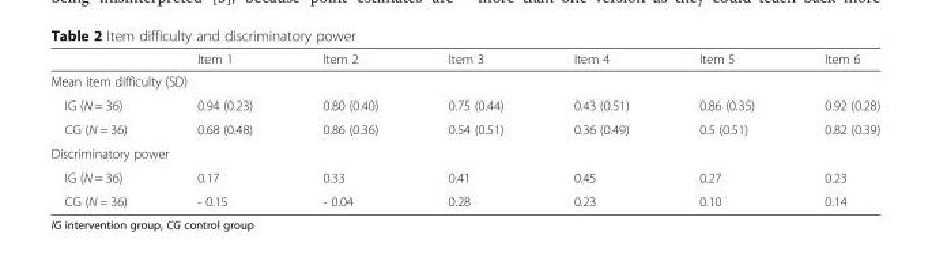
<table><thead><tr><td></td><td>Item 1</td><td>Item 2</td><td>Item 3</td><td>Item 4</td><td>Item 5</td><td>Item 6</td></tr></thead><tbody><tr><td colspan="7">Mean item difficulty (SD)</td></tr><tr><td>IG (N = 36)</td><td>0.94 (0.23)</td><td>0.80 (0.40)</td><td>0.75 (0.44)</td><td>0.43 (0.51)</td><td>0.86 (0.35)</td><td>0.92 (0.28)</td></tr><tr><td>CG (N = 36)</td><td>0.68 (0.48)</td><td>0.86 (0.36)</td><td>0.54 (0.51)</td><td>0.36 (0.49)</td><td>0.5 (0.51)</td><td>0.82 (0.39)</td></tr><tr><td colspan="7">Discriminatory power</td></tr><tr><td>IG (N = 36)</td><td>0.17</td><td>0.33</td><td>0.41</td><td>0.45</td><td>0.27</td><td>0.23</td></tr><tr><td>CG (N = 36)</td><td>- 0.15</td><td>- 0.04</td><td>0.28</td><td>0.23</td><td>0.10</td><td>0.14</td></tr></tbody></table>